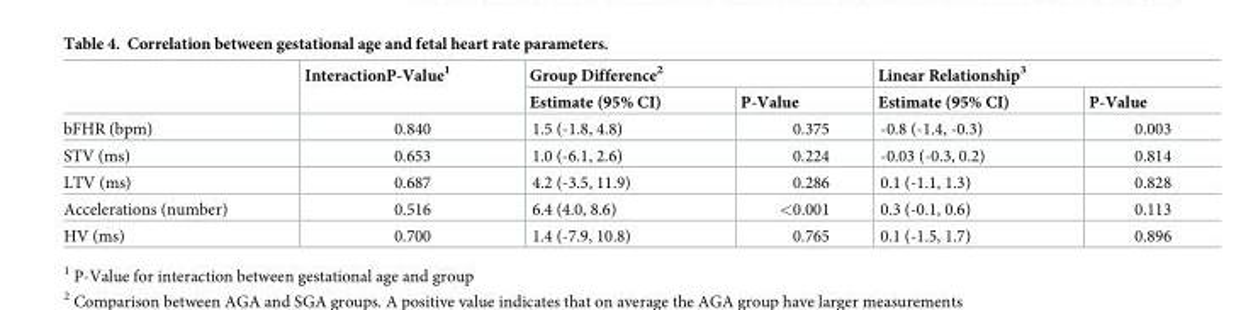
<table><thead><tr><td rowspan="2"></td><td rowspan="2">InteractionP-Value<sup>1</sup></td><td colspan="2">Group Difference<sup>2</sup></td><td colspan="2">Linear Relationship<sup>3</sup></td></tr><tr><td>Estimate (95% CI)</td><td>P-Value</td><td>Estimate (95% CI)</td><td>P-Value</td></tr></thead><tbody><tr><td>bFHR (bpm)</td><td>0.840</td><td>1.5 (-1.8, 4.8)</td><td>0.375</td><td>-0.8 (-1.4, -0.3)</td><td>0.003</td></tr><tr><td>STV (ms)</td><td>0.653</td><td>1.0 (-6.1, 2.6)</td><td>0.224</td><td>-0.03 (-0.3, 0.2)</td><td>0.814</td></tr><tr><td>LTV (ms)</td><td>0.687</td><td>4.2 (-3.5, 11.9)</td><td>0.286</td><td>0.1 (-1.1, 1.3)</td><td>0.828</td></tr><tr><td>Accelerations (number)</td><td>0.516</td><td>6.4 (4.0, 8.6)</td><td>&lt;0.001</td><td>0.3 (-0.1, 0.6)</td><td>0.113</td></tr><tr><td>HV (ms)</td><td>0.700</td><td>1.4 (-7.9, 10.8)</td><td>0.765</td><td>0.1 (-1.5, 1.7)</td><td>0.896</td></tr></tbody></table>